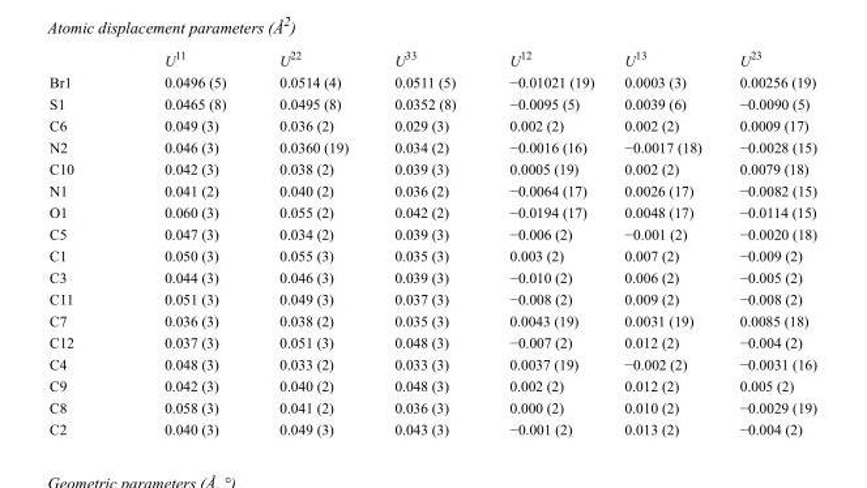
<table><thead><tr><td></td><td>U<sup>11</sup></td><td>U<sup>22</sup></td><td>U<sup>33</sup></td><td>U<sup>12</sup></td><td>U<sup>13</sup></td><td>U<sup>23</sup></td></tr></thead><tbody><tr><td>Br1</td><td>0.0496 (5)</td><td>0.0514 (4)</td><td>0.0511 (5)</td><td>−0.01021 (19)</td><td>0.0003 (3)</td><td>0.00256 (19)</td></tr><tr><td>S1</td><td>0.0465 (8)</td><td>0.0495 (8)</td><td>0.0352 (8)</td><td>−0.0095 (5)</td><td>0.0039 (6)</td><td>−0.0090 (5)</td></tr><tr><td>C6</td><td>0.049 (3)</td><td>0.036 (2)</td><td>0.029 (3)</td><td>0.002 (2)</td><td>0.002 (2)</td><td>0.0009 (17)</td></tr><tr><td>N2</td><td>0.046 (3)</td><td>0.0360 (19)</td><td>0.034 (2)</td><td>−0.0016 (16)</td><td>−0.0017 (18)</td><td>−0.0028 (15)</td></tr><tr><td>C10</td><td>0.042 (3)</td><td>0.038 (2)</td><td>0.039 (3)</td><td>0.0005 (19)</td><td>0.002 (2)</td><td>0.0079 (18)</td></tr><tr><td>N1</td><td>0.041 (2)</td><td>0.040 (2)</td><td>0.036 (2)</td><td>−0.0064 (17)</td><td>0.0026 (17)</td><td>−0.0082 (15)</td></tr><tr><td>O1</td><td>0.060 (3)</td><td>0.055 (2)</td><td>0.042 (2)</td><td>−0.0194 (17)</td><td>0.0048 (17)</td><td>−0.0114 (15)</td></tr><tr><td>C5</td><td>0.047 (3)</td><td>0.034 (2)</td><td>0.039 (3)</td><td>−0.006 (2)</td><td>−0.001 (2)</td><td>−0.0020 (18)</td></tr><tr><td>C1</td><td>0.050 (3)</td><td>0.055 (3)</td><td>0.035 (3)</td><td>0.003 (2)</td><td>0.007 (2)</td><td>−0.009 (2)</td></tr><tr><td>C3</td><td>0.044 (3)</td><td>0.046 (3)</td><td>0.039 (3)</td><td>−0.010 (2)</td><td>0.006 (2)</td><td>−0.005 (2)</td></tr><tr><td>C11</td><td>0.051 (3)</td><td>0.049 (3)</td><td>0.037 (3)</td><td>−0.008 (2)</td><td>0.009 (2)</td><td>−0.008 (2)</td></tr><tr><td>C7</td><td>0.036 (3)</td><td>0.038 (2)</td><td>0.035 (3)</td><td>0.0043 (19)</td><td>0.0031 (19)</td><td>0.0085 (18)</td></tr><tr><td>C12</td><td>0.037 (3)</td><td>0.051 (3)</td><td>0.048 (3)</td><td>−0.007 (2)</td><td>0.012 (2)</td><td>−0.004 (2)</td></tr><tr><td>C4</td><td>0.048 (3)</td><td>0.033 (2)</td><td>0.033 (3)</td><td>0.0037 (19)</td><td>−0.002 (2)</td><td>−0.0031 (16)</td></tr><tr><td>C9</td><td>0.042 (3)</td><td>0.040 (2)</td><td>0.048 (3)</td><td>0.002 (2)</td><td>0.012 (2)</td><td>0.005 (2)</td></tr><tr><td>C8</td><td>0.058 (3)</td><td>0.041 (2)</td><td>0.036 (3)</td><td>0.000 (2)</td><td>0.010 (2)</td><td>−0.0029 (19)</td></tr><tr><td>C2</td><td>0.040 (3)</td><td>0.049 (3)</td><td>0.043 (3)</td><td>−0.001 (2)</td><td>0.013 (2)</td><td>−0.004 (2)</td></tr></tbody></table>